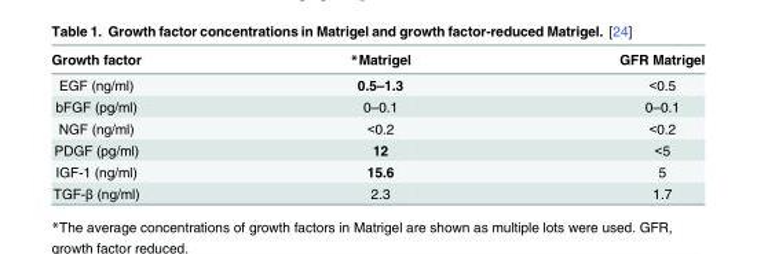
<table><thead><tr><td>Growth factor</td><td>*Matrigel</td><td>GFR Matrigel</td></tr></thead><tbody><tr><td>EGF (ng/ml)</td><td>0.5–1.3</td><td>&lt;0.5</td></tr><tr><td>bFGF (pg/ml)</td><td>0–0.1</td><td>0–0.1</td></tr><tr><td>NGF (ng/ml)</td><td>&lt;0.2</td><td>&lt;0.2</td></tr><tr><td>PDGF (pg/ml)</td><td>12</td><td>&lt;5</td></tr><tr><td>IGF-1 (ng/ml)</td><td>15.6</td><td>5</td></tr><tr><td>TGF-β (ng/ml)</td><td>2.3</td><td>1.7</td></tr></tbody></table>